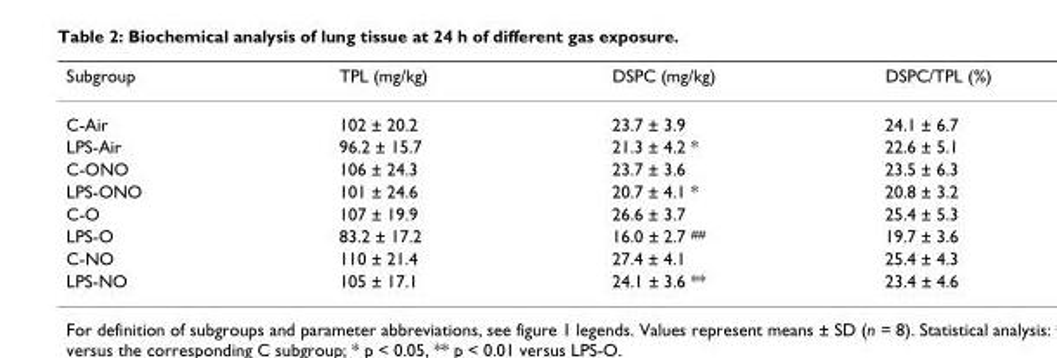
<table><thead><tr><td>Subgroup</td><td>TPL (mg/kg)</td><td>DSPC (mg/kg)</td><td>DSPC/TPL (%)</td></tr></thead><tbody><tr><td>C-Air</td><td>102 ± 20.2</td><td>23.7 ± 3.9</td><td>24.1 ± 6.7</td></tr><tr><td>LPS-Air</td><td>96.2 ± 15.7</td><td>21.3 ± 4.2 *</td><td>22.6 ± 5.1</td></tr><tr><td>C-ONO</td><td>106 ± 24.3</td><td>23.7 ± 3.6</td><td>23.5 ± 6.3</td></tr><tr><td>LPS-ONO</td><td>101 ± 24.6</td><td>20.7 ± 4.1 *</td><td>20.8 ± 3.2</td></tr><tr><td>C-O</td><td>107 ± 19.9</td><td>26.6 ± 3.7</td><td>25.4 ± 5.3</td></tr><tr><td>LPS-O</td><td>83.2 ± 17.2</td><td>16.0 ± 2.7 <sup>##</sup></td><td>19.7 ± 3.6</td></tr><tr><td>C-NO</td><td>110 ± 21.4</td><td>27.4 ± 4.1</td><td>25.4 ± 4.3</td></tr><tr><td>LPS-NO</td><td>105 ± 17.1</td><td>24.1 ± 3.6 **</td><td>23.4 ± 4.6</td></tr></tbody></table>